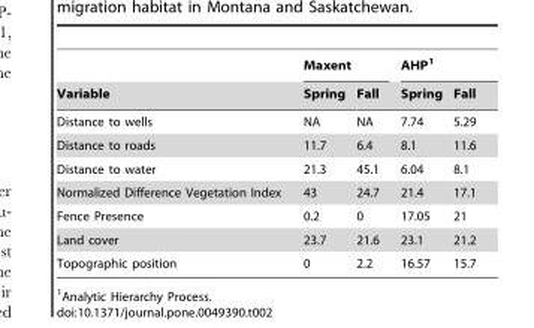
<table><thead><tr><td rowspan="2">Variable</td><td colspan="2">Maxent</td><td colspan="2">AHP<sup>1</sup></td></tr><tr><td>Spring</td><td>Fall</td><td>Spring</td><td>Fall</td></tr></thead><tbody><tr><td>Distance to wells</td><td>NA</td><td>NA</td><td>7.74</td><td>5.29</td></tr><tr><td>Distance to roads</td><td>11.7</td><td>6.4</td><td>8.1</td><td>11.6</td></tr><tr><td>Distance to water</td><td>21.3</td><td>45.1</td><td>6.04</td><td>8.1</td></tr><tr><td>Normalized Difference Vegetation Index</td><td>43</td><td>24.7</td><td>21.4</td><td>17.1</td></tr><tr><td>Fence Presence</td><td>0.2</td><td>0</td><td>17.05</td><td>21</td></tr><tr><td>Land cover</td><td>23.7</td><td>21.6</td><td>23.1</td><td>21.2</td></tr><tr><td>Topographic position</td><td>0</td><td>2.2</td><td>16.57</td><td>15.7</td></tr></tbody></table>